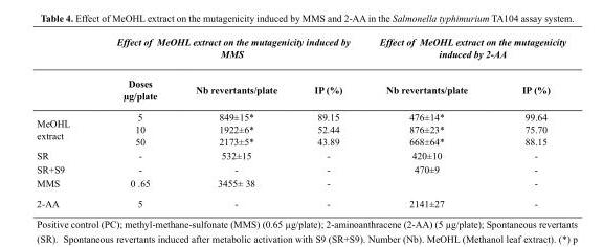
<table><thead><tr><td colspan="4">Effect of MeOHL extract on the mutagenicity induced by MMS</td><td colspan="2">Effect of MeOHL extract on the mutagenicity induced by 2-AA</td></tr><tr><td></td><td>Doses µg/plate</td><td>Nb revertants/plate</td><td>IP (%)</td><td>Nb revertants/plate</td><td>IP (%)</td></tr></thead><tbody><tr><td>MeOHL extract</td><td>5 10 50</td><td>849±15* 1922±6* 2173±5*</td><td>89.15 52.44 43.89</td><td>476±14* 876±23* 668±64*</td><td>99.64 75.70 88.15</td></tr><tr><td>SR</td><td>-</td><td>532±15</td><td>-</td><td>420±10</td><td>-</td></tr><tr><td>SR+S9</td><td>-</td><td>-</td><td>-</td><td>470±9</td><td>-</td></tr><tr><td>MMS</td><td>0 .65</td><td>3455± 38</td><td>-</td><td></td><td>-</td></tr><tr><td>2-AA</td><td>5</td><td>-</td><td>-</td><td>2141±27</td><td>-</td></tr></tbody></table>